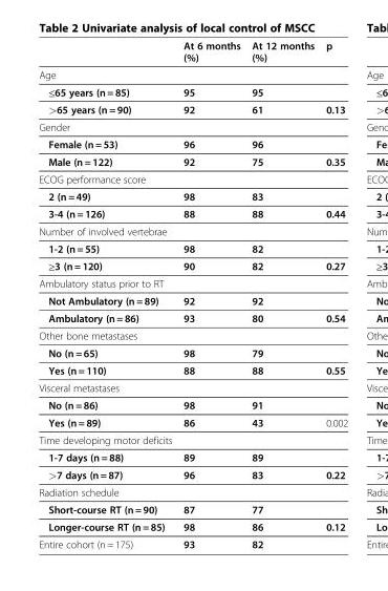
<table><thead><tr><td></td><td>At 6 months (%)</td><td>At 12 months (%)</td><td>p</td></tr></thead><tbody><tr><td colspan="4">Age</td></tr><tr><td>≤65 years (n = 85)</td><td>95</td><td>95</td><td></td></tr><tr><td>&gt;65 years (n = 90)</td><td>92</td><td>61</td><td>0.13</td></tr><tr><td colspan="4">Gender</td></tr><tr><td>Female (n = 53)</td><td>96</td><td>96</td><td></td></tr><tr><td>Male (n = 122)</td><td>92</td><td>75</td><td>0.35</td></tr><tr><td colspan="4">ECOG performance score</td></tr><tr><td>2 (n = 49)</td><td>98</td><td>83</td><td></td></tr><tr><td>3-4 (n = 126)</td><td>88</td><td>88</td><td>0.44</td></tr><tr><td colspan="4">Number of involved vertebrae</td></tr><tr><td>1-2 (n = 55)</td><td>98</td><td>82</td><td></td></tr><tr><td>≥3 (n = 120)</td><td>90</td><td>82</td><td>0.27</td></tr><tr><td colspan="4">Ambulatory status prior to RT</td></tr><tr><td>Not Ambulatory (n = 89)</td><td>92</td><td>92</td><td></td></tr><tr><td>Ambulatory (n = 86)</td><td>93</td><td>80</td><td>0.54</td></tr><tr><td colspan="4">Other bone metastases</td></tr><tr><td>No (n = 65)</td><td>98</td><td>79</td><td></td></tr><tr><td>Yes (n = 110)</td><td>88</td><td>88</td><td>0.55</td></tr><tr><td colspan="4">Visceral metastases</td></tr><tr><td>No (n = 86)</td><td>98</td><td>91</td><td></td></tr><tr><td>Yes (n = 89)</td><td>86</td><td>43</td><td>0.002</td></tr><tr><td colspan="4">Time developing motor deficits</td></tr><tr><td>1-7 days (n = 88)</td><td>89</td><td>89</td><td></td></tr><tr><td>&gt;7 days (n = 87)</td><td>96</td><td>83</td><td>0.22</td></tr><tr><td colspan="4">Radiation schedule</td></tr><tr><td>Short-course RT (n = 90)</td><td>87</td><td>77</td><td></td></tr><tr><td>Longer-course RT (n = 85)</td><td>98</td><td>86</td><td>0.12</td></tr><tr><td>Entire cohort (n = 175)</td><td>93</td><td>82</td><td></td></tr></tbody></table>